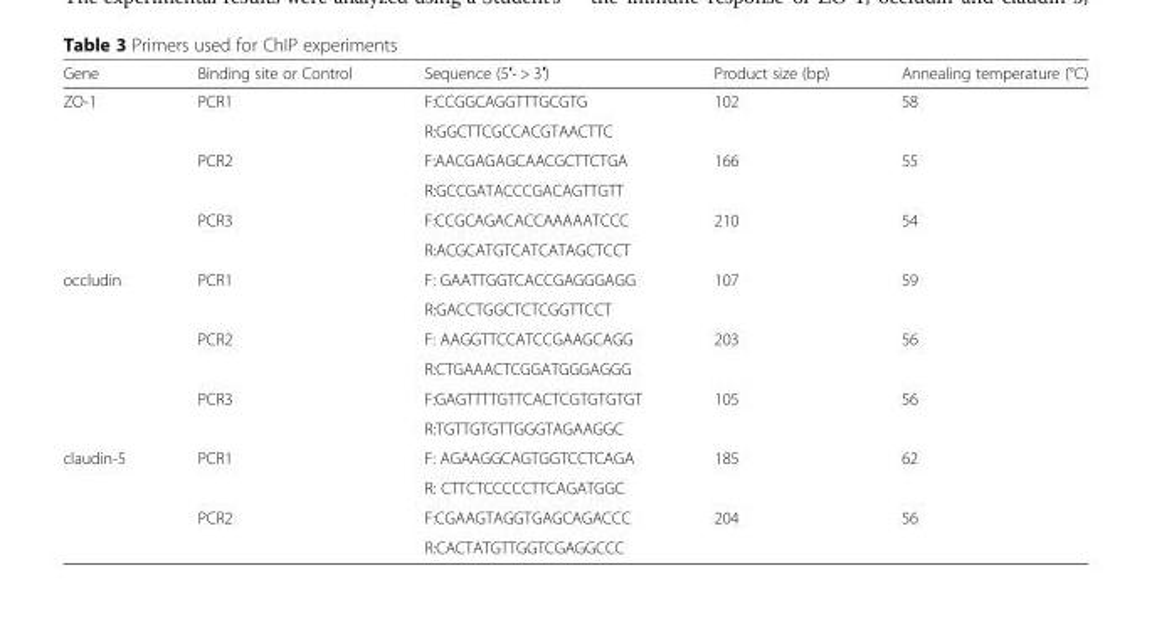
<table><thead><tr><td>Gene</td><td>Binding site or Control</td><td>Sequence (5′- &gt; 3′)</td><td>Product size (bp)</td><td>Annealing temperature (°C)</td></tr></thead><tbody><tr><td rowspan="6">ZO-1</td><td rowspan="2">PCR1</td><td>F:CCGGCAGGTTTGCGTG</td><td>102</td><td>58</td></tr><tr><td>R:GGCTTCGCCACGTAACTTC</td><td></td><td></td></tr><tr><td rowspan="2">PCR2</td><td>F:AACGAGAGCAACGCTTCTGA</td><td>166</td><td>55</td></tr><tr><td>R:GCCGATACCCGACAGTTGTT</td><td></td><td></td></tr><tr><td rowspan="2">PCR3</td><td>F:CCGCAGACACCAAAAATCCC</td><td>210</td><td>54</td></tr><tr><td>R:ACGCATGTCATCATAGCTCCT</td><td></td><td></td></tr><tr><td rowspan="6">occludin</td><td rowspan="2">PCR1</td><td>F: GAATTGGTCACCGAGGGAGG</td><td>107</td><td>59</td></tr><tr><td>R:GACCTGGCTCTCGGTTCCT</td><td></td><td></td></tr><tr><td rowspan="2">PCR2</td><td>F: AAGGTTCCATCCGAAGCAGG</td><td>203</td><td>56</td></tr><tr><td>R:CTGAAACTCGGATGGGAGGG</td><td></td><td></td></tr><tr><td rowspan="2">PCR3</td><td>F:GAGTTTTGTTCACTCGTGTGTGT</td><td>105</td><td>56</td></tr><tr><td>R:TGTTGTGTTGGGTAGAAGGC</td><td></td><td></td></tr><tr><td rowspan="4">claudin-5</td><td rowspan="2">PCR1</td><td>F: AGAAGGCAGTGGTCCTCAGA</td><td>185</td><td>62</td></tr><tr><td>R: CTTCTCCCCCTTCAGATGGC</td><td></td><td></td></tr><tr><td rowspan="2">PCR2</td><td>F:CGAAGTAGGTGAGCAGACCC</td><td>204</td><td>56</td></tr><tr><td>R:CACTATGTTGGTCGAGGCCC</td><td></td><td></td></tr></tbody></table>